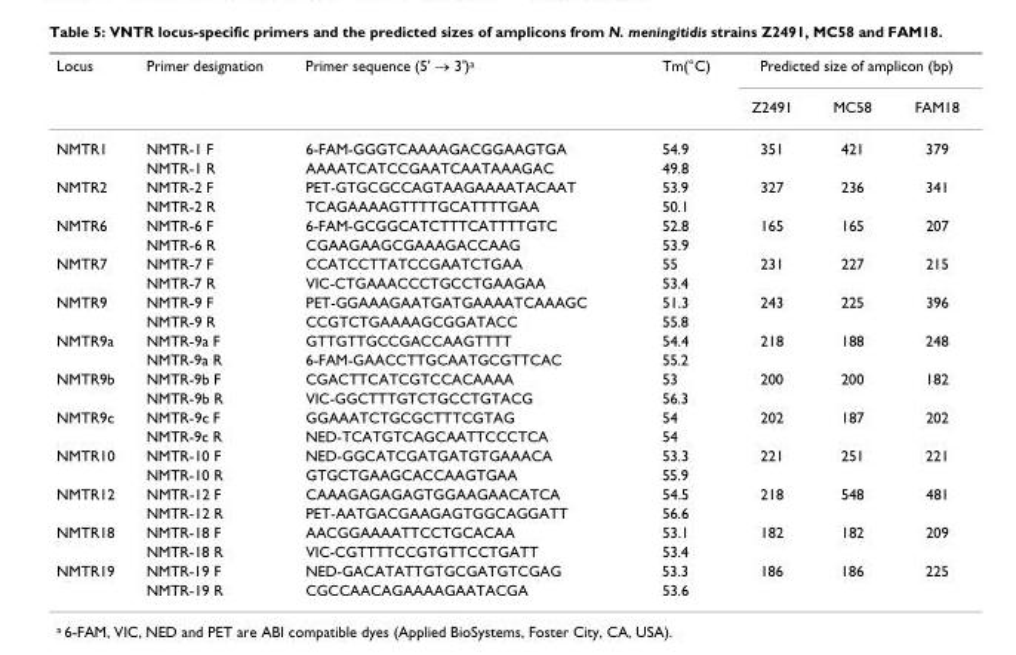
<table><thead><tr><td rowspan="2">Locus</td><td rowspan="2">Primer designation</td><td rowspan="2">Primer sequence (5&#x27; → 3&#x27;)a</td><td rowspan="2">Tm(°C)</td><td colspan="3">Predicted size of amplicon (bp)</td></tr><tr><td>Z2491</td><td>MC58</td><td>FAM18</td></tr></thead><tbody><tr><td rowspan="2">NMTR1</td><td>NMTR-1 F</td><td>6-FAM-GGGTCAAAAGACGGAAGTGA</td><td>54.9</td><td>351</td><td>421</td><td>379</td></tr><tr><td>NMTR-1 R</td><td>AAAATCATCCGAATCAATAAAGAC</td><td>49.8</td><td></td><td></td><td></td></tr><tr><td rowspan="2">NMTR2</td><td>NMTR-2 F</td><td>PET-GTGCGCCAGTAAGAAAATACAAT</td><td>53.9</td><td>327</td><td>236</td><td>341</td></tr><tr><td>NMTR-2 R</td><td>TCAGAAAAGTTTTGCATTTTGAA</td><td>50.1</td><td></td><td></td><td></td></tr><tr><td rowspan="2">NMTR6</td><td>NMTR-6 F</td><td>6-FAM-GCGGCATCTTTCATTTTGTC</td><td>52.8</td><td>165</td><td>165</td><td>207</td></tr><tr><td>NMTR-6 R</td><td>CGAAGAAGCGAAAGACCAAG</td><td>53.9</td><td></td><td></td><td></td></tr><tr><td rowspan="2">NMTR7</td><td>NMTR-7 F</td><td>CCATCCTTATCCGAATCTGAA</td><td>55</td><td>231</td><td>227</td><td>215</td></tr><tr><td>NMTR-7 R</td><td>VIC-CTGAAACCCTGCCTGAAGAA</td><td>53.4</td><td></td><td></td><td></td></tr><tr><td rowspan="2">NMTR9</td><td>NMTR-9 F</td><td>PET-GGAAAGAATGATGAAAATCAAAGC</td><td>51.3</td><td>243</td><td>225</td><td>396</td></tr><tr><td>NMTR-9 R</td><td>CCGTCTGAAAAGCGGATACC</td><td>55.8</td><td></td><td></td><td></td></tr><tr><td rowspan="2">NMTR9a</td><td>NMTR-9a F</td><td>GTTGTTGCCGACCAAGTTTT</td><td>54.4</td><td>218</td><td>188</td><td>248</td></tr><tr><td>NMTR-9a R</td><td>6-FAM-GAACCTTGCAATGCGTTCAC</td><td>55.2</td><td></td><td></td><td></td></tr><tr><td rowspan="2">NMTR9b</td><td>NMTR-9b F</td><td>CGACTTCATCGTCCACAAAA</td><td>53</td><td>200</td><td>200</td><td>182</td></tr><tr><td>NMTR-9b R</td><td>VIC-GGCTTTGTCTGCCTGTACG</td><td>56.3</td><td></td><td></td><td></td></tr><tr><td rowspan="2">NMTR9c</td><td>NMTR-9c F</td><td>GGAAATCTGCGCTTTCGTAG</td><td>54</td><td>202</td><td>187</td><td>202</td></tr><tr><td>NMTR-9c R</td><td>NED-TCATGTCAGCAATTCCCTCA</td><td>54</td><td></td><td></td><td></td></tr><tr><td rowspan="2">NMTR10</td><td>NMTR-10 F</td><td>NED-GGCATCGATGATGTGAAACA</td><td>53.3</td><td>221</td><td>251</td><td>221</td></tr><tr><td>NMTR-10 R</td><td>GTGCTGAAGCACCAAGTGAA</td><td>55.9</td><td></td><td></td><td></td></tr><tr><td rowspan="2">NMTR12</td><td>NMTR-12 F</td><td>CAAAGAGAGAGTGGAAGAACATCA</td><td>54.5</td><td>218</td><td>548</td><td>481</td></tr><tr><td>NMTR-12 R</td><td>PET-AATGACGAAGAGTGGCAGGATT</td><td>56.6</td><td></td><td></td><td></td></tr><tr><td rowspan="2">NMTR18</td><td>NMTR-18 F</td><td>AACGGAAAATTCCTGCACAA</td><td>53.1</td><td>182</td><td>182</td><td>209</td></tr><tr><td>NMTR-18 R</td><td>VIC-CGTTTTCCGTGTTCCTGATT</td><td>53.4</td><td></td><td></td><td></td></tr><tr><td rowspan="2">NMTR19</td><td>NMTR-19 F</td><td>NED-GACATATTGTGCGATGTCGAG</td><td>53.3</td><td>186</td><td>186</td><td>225</td></tr><tr><td>NMTR-19 R</td><td>CGCCAACAGAAAAGAATACGA</td><td>53.6</td><td></td><td></td><td></td></tr></tbody></table>